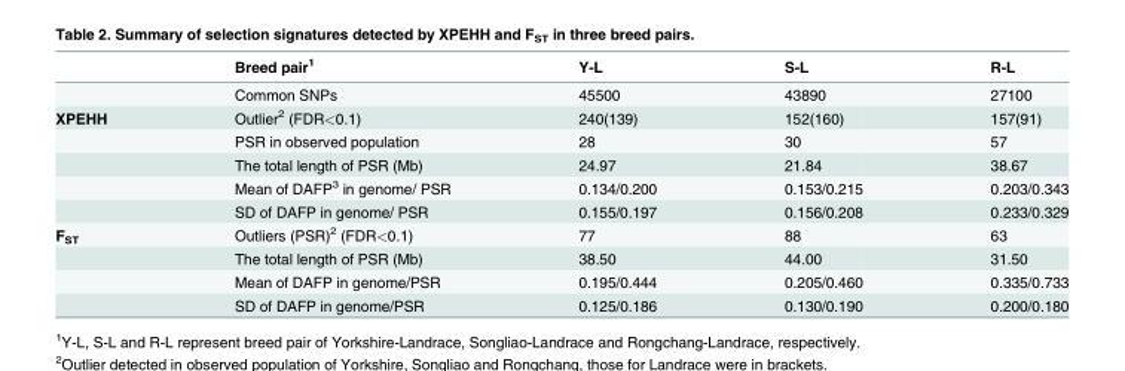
<table><thead><tr><td></td><td>Breed pair<sup>1</sup></td><td>Y-L</td><td>S-L</td><td>R-L</td></tr></thead><tbody><tr><td></td><td>Common SNPs</td><td>45500</td><td>43890</td><td>27100</td></tr><tr><td rowspan="5">XPEHH</td><td>Outlier<sup>2</sup> (FDR&lt;0.1)</td><td>240(139)</td><td>152(160)</td><td>157(91)</td></tr><tr><td>PSR in observed population</td><td>28</td><td>30</td><td>57</td></tr><tr><td>The total length of PSR (Mb)</td><td>24.97</td><td>21.84</td><td>38.67</td></tr><tr><td>Mean of DAFP<sup>3</sup> in genome/ PSR</td><td>0.134/0.200</td><td>0.153/0.215</td><td>0.203/0.343</td></tr><tr><td>SD of DAFP in genome/ PSR</td><td>0.155/0.197</td><td>0.156/0.208</td><td>0.233/0.329</td></tr><tr><td rowspan="4">F<sub>ST</sub></td><td>Outliers (PSR)<sup>2</sup> (FDR&lt;0.1)</td><td>77</td><td>88</td><td>63</td></tr><tr><td>The total length of PSR (Mb)</td><td>38.50</td><td>44.00</td><td>31.50</td></tr><tr><td>Mean of DAFP in genome/PSR</td><td>0.195/0.444</td><td>0.205/0.460</td><td>0.335/0.733</td></tr><tr><td>SD of DAFP in genome/PSR</td><td>0.125/0.186</td><td>0.130/0.190</td><td>0.200/0.180</td></tr></tbody></table>